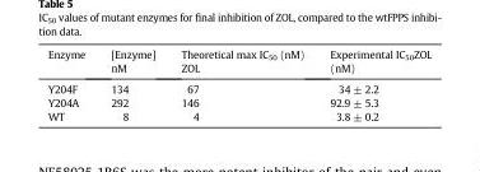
<table><thead><tr><td>Enzyme</td><td>[Enzyme] nM</td><td>Theoretical max IC<sub>50</sub> (nM) ZOL</td><td>Experimental IC<sub>50</sub>ZOL (nM)</td></tr></thead><tbody><tr><td>Y204F</td><td>134</td><td>67</td><td>34 ± 2.2</td></tr><tr><td>Y204A</td><td>292</td><td>146</td><td>92.9 ± 5.3</td></tr><tr><td>WT</td><td>8</td><td>4</td><td>3.8 ± 0.2</td></tr></tbody></table>